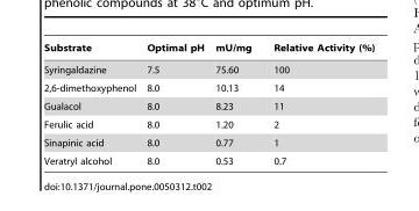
<table><thead><tr><td>Substrate</td><td>Optimal pH</td><td>mU/mg</td><td>Relative Activity (%)</td></tr></thead><tbody><tr><td>Syringaldazine</td><td>7.5</td><td>75.60</td><td>100</td></tr><tr><td>2,6-dimethoxyphenol</td><td>8.0</td><td>10.13</td><td>14</td></tr><tr><td>Gualacol</td><td>8.0</td><td>8.23</td><td>11</td></tr><tr><td>Ferulic acid</td><td>8.0</td><td>1.20</td><td>2</td></tr><tr><td>Sinapinic acid</td><td>8.0</td><td>0.77</td><td>1</td></tr><tr><td>Veratryl alcohol</td><td>8.0</td><td>0.53</td><td>0.7</td></tr></tbody></table>